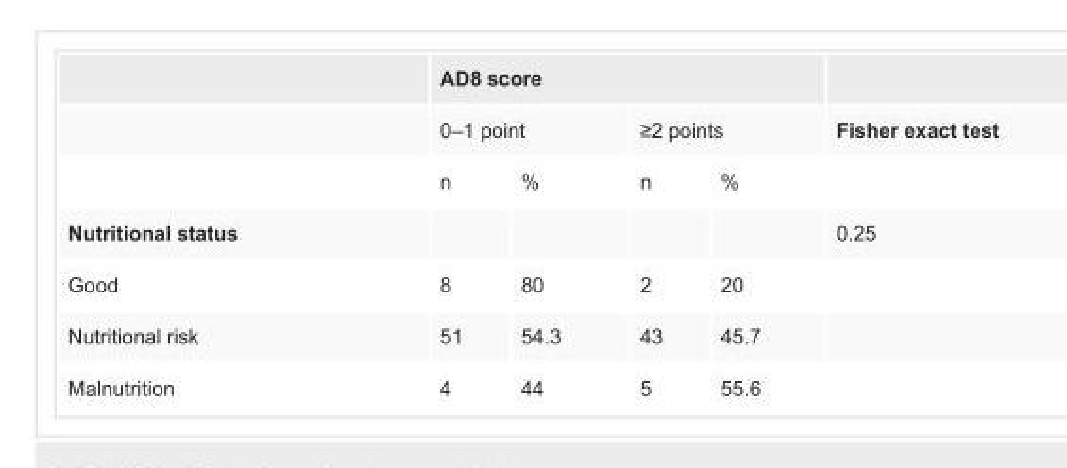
<table><thead><tr><td rowspan="3"></td><td colspan="4">AD8 score</td><td rowspan="3">Fisher exact test</td></tr><tr><td colspan="2">0–1 point</td><td colspan="2">≥2 points</td></tr><tr><td>n</td><td>%</td><td>n</td><td>%</td></tr></thead><tbody><tr><td>Nutritional status</td><td></td><td></td><td></td><td></td><td>0.25</td></tr><tr><td>Good</td><td>8</td><td>80</td><td>2</td><td>20</td><td></td></tr><tr><td>Nutritional risk</td><td>51</td><td>54.3</td><td>43</td><td>45.7</td><td></td></tr><tr><td>Malnutrition</td><td>4</td><td>44</td><td>5</td><td>55.6</td><td></td></tr></tbody></table>